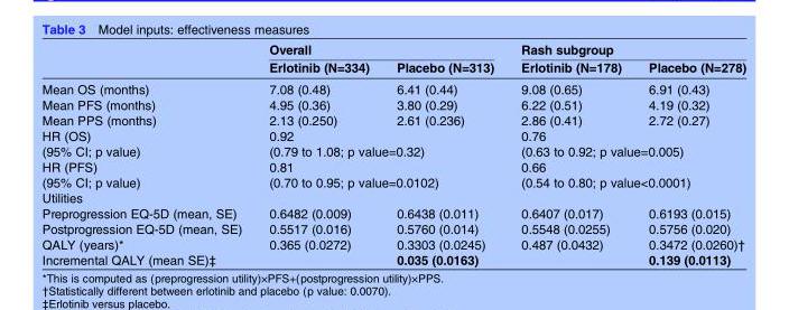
<table><thead><tr><td rowspan="2"></td><td colspan="2">Overall</td><td colspan="2">Rash subgroup</td></tr><tr><td>Erlotinib (N=334)</td><td>Placebo (N=313)</td><td>Erlotinib (N=178)</td><td>Placebo (N=278)</td></tr></thead><tbody><tr><td>Mean OS (months)</td><td>7.08 (0.48)</td><td>6.41 (0.44)</td><td>9.08 (0.65)</td><td>6.91 (0.43)</td></tr><tr><td>Mean PFS (months)</td><td>4.95 (0.36)</td><td>3.80 (0.29)</td><td>6.22 (0.51)</td><td>4.19 (0.32)</td></tr><tr><td>Mean PPS (months)</td><td>2.13 (0.250)</td><td>2.61 (0.236)</td><td>2.86 (0.41)</td><td>2.72 (0.27)</td></tr><tr><td>HR (OS)</td><td colspan="2">0.92</td><td colspan="2">0.76</td></tr><tr><td>(95% CI; p value)</td><td colspan="2">(0.79 to 1.08; p value=0.32)</td><td colspan="2">(0.63 to 0.92; p value=0.005)</td></tr><tr><td>HR (PFS)</td><td colspan="2">0.81</td><td colspan="2">0.66</td></tr><tr><td>(95% CI; p value)</td><td colspan="2">(0.70 to 0.95; p value=0.0102)</td><td colspan="2">(0.54 to 0.80; p value&lt;0.0001)</td></tr><tr><td colspan="5">Utilities</td></tr><tr><td>Preprogression EQ-5D (mean, SE)</td><td>0.6482 (0.009)</td><td>0.6438 (0.011)</td><td>0.6407 (0.017)</td><td>0.6193 (0.015)</td></tr><tr><td>Postprogression EQ-5D (mean, SE)</td><td>0.5517 (0.016)</td><td>0.5760 (0.014)</td><td>0.5548 (0.0255)</td><td>0.5756 (0.020)</td></tr><tr><td>QALY (years)*</td><td>0.365 (0.0272)</td><td>0.3303 (0.0245)</td><td>0.487 (0.0432)</td><td>0.3472 (0.0260)†</td></tr><tr><td>Incremental QALY (mean SE)‡</td><td></td><td>0.035 (0.0163)</td><td></td><td>0.139 (0.0113)</td></tr></tbody></table>